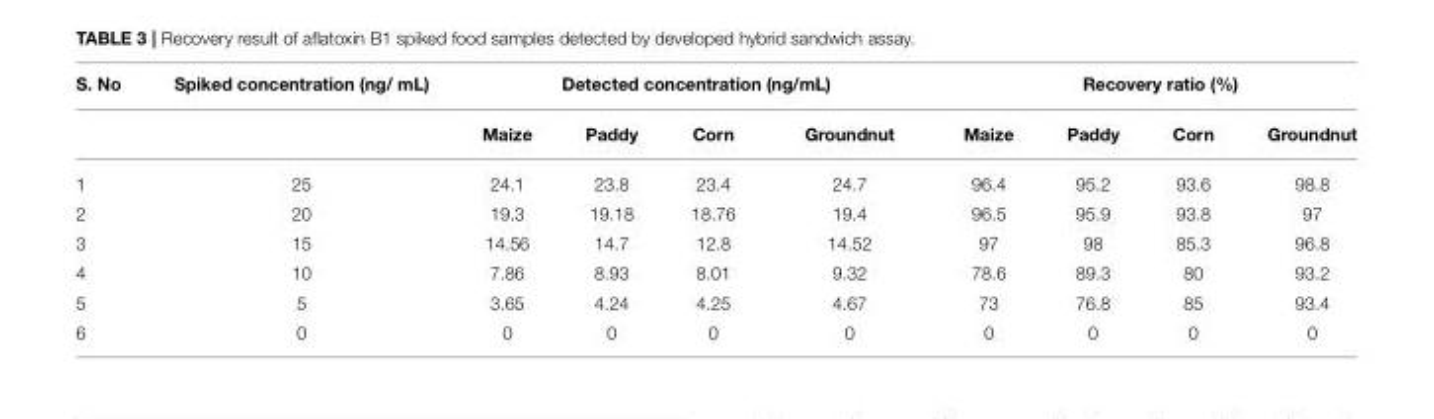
<table><thead><tr><td rowspan="2">S. No</td><td rowspan="2">Spiked concentration (ng/ mL)</td><td colspan="4">Detected concentration (ng/mL)</td><td colspan="4">Recovery ratio (%)</td></tr><tr><td>Maize</td><td>Paddy</td><td>Corn</td><td>Groundnut</td><td>Maize</td><td>Paddy</td><td>Corn</td><td>Groundnut</td></tr></thead><tbody><tr><td>1</td><td>25</td><td>24.1</td><td>23.8</td><td>23.4</td><td>24.7</td><td>96.4</td><td>95.2</td><td>93.6</td><td>98.8</td></tr><tr><td>2</td><td>20</td><td>19.3</td><td>19.18</td><td>18.76</td><td>19.4</td><td>96.5</td><td>95.9</td><td>93.8</td><td>97</td></tr><tr><td>3</td><td>15</td><td>14.56</td><td>14.7</td><td>12.8</td><td>14.52</td><td>97</td><td>98</td><td>85.3</td><td>96.8</td></tr><tr><td>4</td><td>10</td><td>7.86</td><td>8.93</td><td>8.01</td><td>9.32</td><td>78.6</td><td>89.3</td><td>80</td><td>93.2</td></tr><tr><td>5</td><td>5</td><td>3.65</td><td>4.24</td><td>4.25</td><td>4.67</td><td>73</td><td>76.8</td><td>85</td><td>93.4</td></tr><tr><td>6</td><td>0</td><td>0</td><td>0</td><td>0</td><td>0</td><td>0</td><td>0</td><td>0</td><td>0</td></tr></tbody></table>